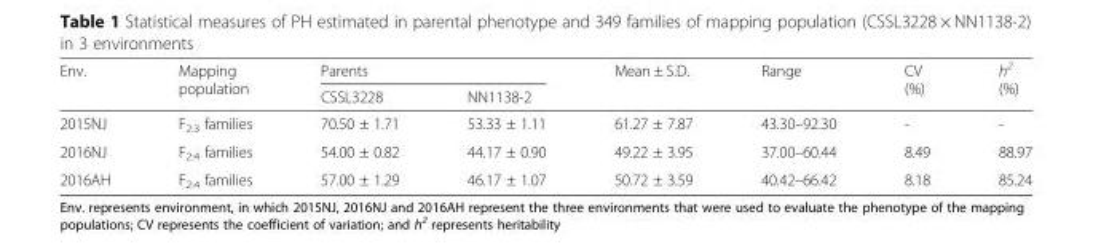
<table><thead><tr><td rowspan="2">Env.</td><td rowspan="2">Mapping population</td><td colspan="2">Parents</td><td rowspan="2">Mean ± S.D.</td><td rowspan="2">Range</td><td rowspan="2">CV (%)</td><td rowspan="2">h<sup>2</sup> (%)</td></tr><tr><td>CSSL3228</td><td>NN1138-2</td></tr></thead><tbody><tr><td>2015NJ</td><td>F<sub>2:3</sub> families</td><td>70.50 ± 1.71</td><td>53.33 ± 1.11</td><td>61.27 ± 7.87</td><td>43.30–92.30</td><td>-</td><td>-</td></tr><tr><td>2016NJ</td><td>F<sub>2:4</sub> families</td><td>54.00 ± 0.82</td><td>44.17 ± 0.90</td><td>49.22 ± 3.95</td><td>37.00–60.44</td><td>8.49</td><td>88.97</td></tr><tr><td>2016AH</td><td>F<sub>2:4</sub> families</td><td>57.00 ± 1.29</td><td>46.17 ± 1.07</td><td>50.72 ± 3.59</td><td>40.42–66.42</td><td>8.18</td><td>85.24</td></tr></tbody></table>